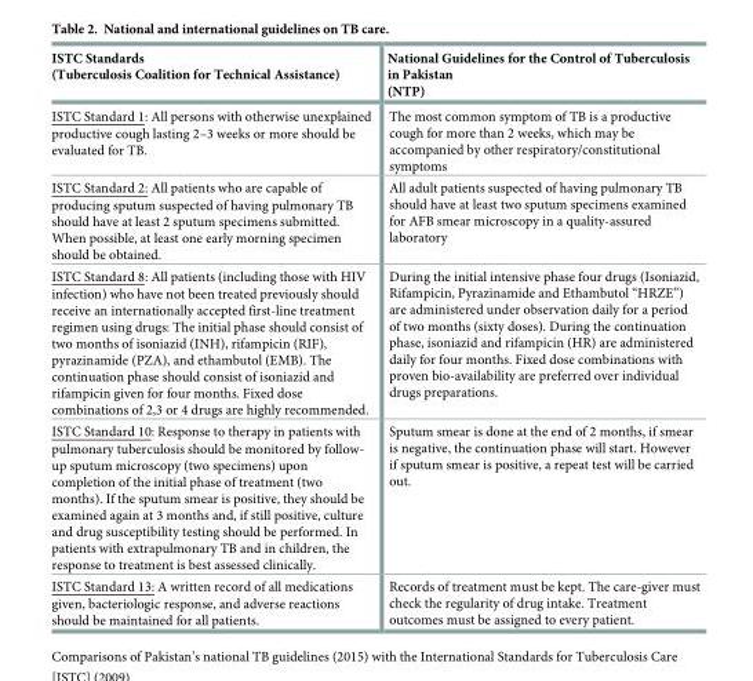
<table><thead><tr><td>ISTC Standards (Tuberculosis Coalition for Technical Assistance)</td><td>National Guidelines for the Control of Tuberculosis in Pakistan (NTP)</td></tr></thead><tbody><tr><td>ISTC Standard 1: All persons with otherwise unexplained productive cough lasting 2–3 weeks or more should be evaluated for TB.</td><td>The most common symptom of TB is a productive cough for more than 2 weeks, which may be accompanied by other respiratory/constitutional symptoms</td></tr><tr><td>ISTC Standard 2: All patients who are capable of producing sputum suspected of having pulmonary TB should have at least 2 sputum specimens submitted. When possible, at least one early morning specimen should be obtained.</td><td>All adult patients suspected of having pulmonary TB should have at least two sputum specimens examined for AFB smear microscopy in a quality-assured laboratory</td></tr><tr><td>ISTC Standard 8: All patients (including those with HIV infection) who have not been treated previously should receive an internationally accepted first-line treatment regimen using drugs: The initial phase should consist of two months of isoniazid (INH), rifampicin (RIF), pyrazinamide (PZA), and ethambutol (EMB). The continuation phase should consist of isoniazid and rifampicin given for four months. Fixed dose combinations of 2,3 or 4 drugs are highly recommended.</td><td>During the initial intensive phase four drugs (Isoniazid, Rifampicin, Pyrazinamide and Ethambutol “HRZE”) are administered under observation daily for a period of two months (sixty doses). During the continuation phase, isoniazid and rifampicin (HR) are administered daily for four months. Fixed dose combinations with proven bio-availability are preferred over individual drugs preparations.</td></tr><tr><td>ISTC Standard 10: Response to therapy in patients with pulmonary tuberculosis should be monitored by follow- up sputum microscopy (two specimens) upon completion of the initial phase of treatment (two months). If the sputum smear is positive, they should be examined again at 3 months and, if still positive, culture and drug susceptibility testing should be performed. In patients with extrapulmonary TB and in children, the response to treatment is best assessed clinically.</td><td>Sputum smear is done at the end of 2 months, if smear is negative, the continuation phase will start. However if sputum smear is positive, a repeat test will be carried out.</td></tr><tr><td>ISTC Standard 13: A written record of all medications given, bacteriologic response, and adverse reactions should be maintained for all patients.</td><td>Records of treatment must be kept. The care-giver must check the regularity of drug intake. Treatment outcomes must be assigned to every patient.</td></tr></tbody></table>